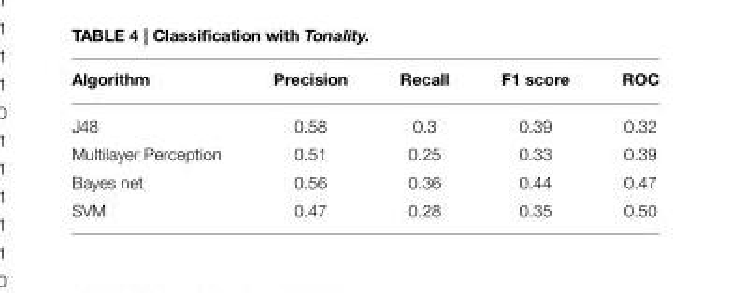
<table><thead><tr><td>Algorithm</td><td>Precision</td><td>Recall</td><td>F1 score</td><td>ROC</td></tr></thead><tbody><tr><td>J48</td><td>0.58</td><td>0.3</td><td>0.39</td><td>0.32</td></tr><tr><td>Multilayer Perception</td><td>0.51</td><td>0.25</td><td>0.33</td><td>0.39</td></tr><tr><td>Bayes net</td><td>0.56</td><td>0.36</td><td>0.44</td><td>0.47</td></tr><tr><td>SVM</td><td>0.47</td><td>0.28</td><td>0.35</td><td>0.50</td></tr></tbody></table>